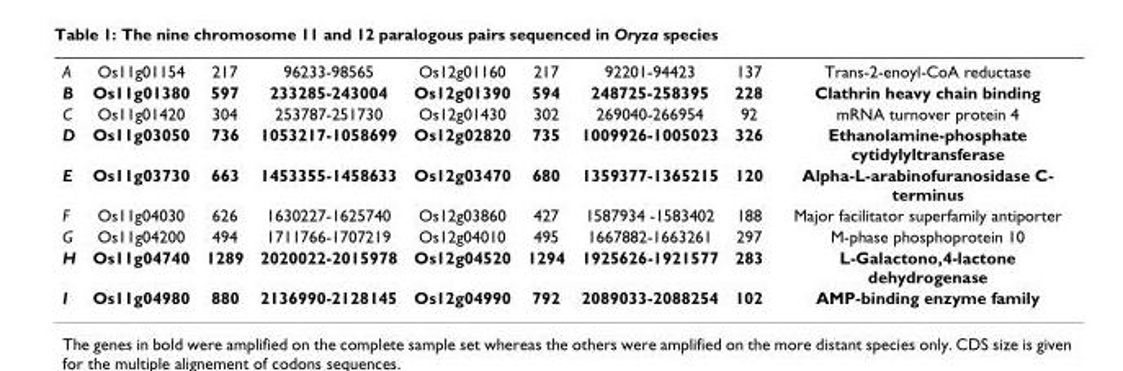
<table><tbody><tr><td>A</td><td>Os11g01154</td><td>217</td><td>96233-98565</td><td>Os12g01160</td><td>217</td><td>92201-94423</td><td>137</td><td>Trans-2-enoyl-CoA reductase</td></tr><tr><td>B</td><td>Os11g01380</td><td>597</td><td>233285-243004</td><td>Os12g01390</td><td>594</td><td>248725-258395</td><td>228</td><td>Clathrin heavy chain binding</td></tr><tr><td>C</td><td>Os11g01420</td><td>304</td><td>253787-251730</td><td>Os12g01430</td><td>302</td><td>269040-266954</td><td>92</td><td>mRNA turnover protein 4</td></tr><tr><td>D</td><td>Os11g03050</td><td>736</td><td>1053217-1058699</td><td>Os12g02820</td><td>735</td><td>1009926-1005023</td><td>326</td><td>Ethanolamine-phosphate cytidylyltransferase</td></tr><tr><td>E</td><td>Os11g03730</td><td>663</td><td>1453355-1458633</td><td>Os12g03470</td><td>680</td><td>1359377-1365215</td><td>120</td><td>Alpha-L-arabinofuranosidase C- terminus</td></tr><tr><td>F</td><td>Os11g04030</td><td>626</td><td>1630227-1625740</td><td>Os12g03860</td><td>427</td><td>1587934 -1583402</td><td>188</td><td>Major facilitator superfamily antiporter</td></tr><tr><td>G</td><td>Os11g04200</td><td>494</td><td>1711766-1707219</td><td>Os12g04010</td><td>495</td><td>1667882-1663261</td><td>297</td><td>M-phase phosphoprotein 10</td></tr><tr><td>H</td><td>Os11g04740</td><td>1289</td><td>2020022-2015978</td><td>Os12g04520</td><td>1294</td><td>1925626-1921577</td><td>283</td><td>L-Galactono,4-lactone dehydrogenase</td></tr><tr><td>I</td><td>Os11g04980</td><td>880</td><td>2136990-2128145</td><td>Os12g04990</td><td>792</td><td>2089033-2088254</td><td>102</td><td>AMP-binding enzyme family</td></tr></tbody></table>